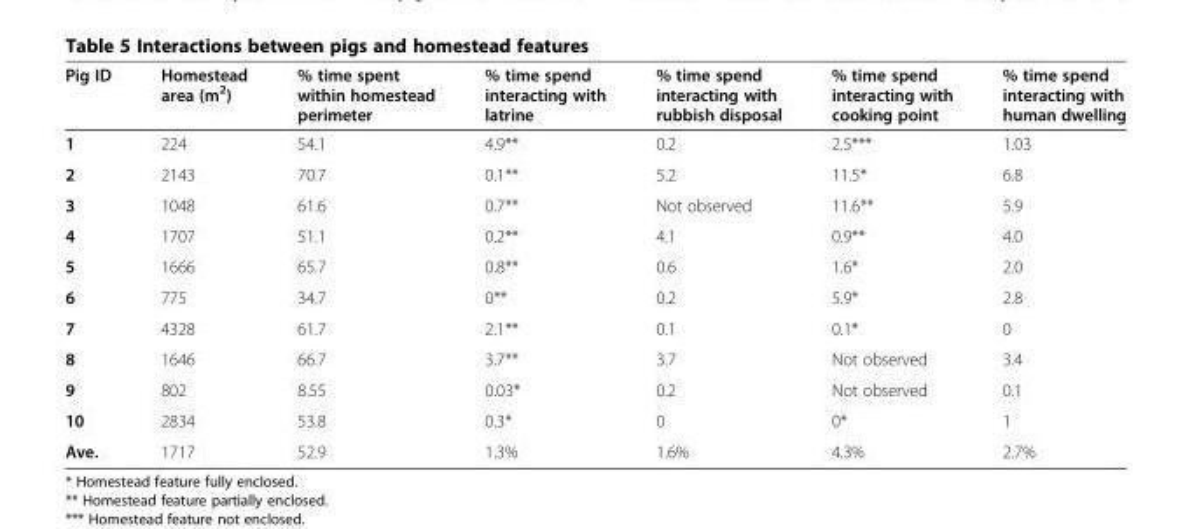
<table><thead><tr><td>Pig ID</td><td>Homestead area (m<sup>2</sup>)</td><td>% time spent within homestead perimeter</td><td>% time spend interacting with latrine</td><td>% time spend interacting with rubbish disposal</td><td>% time spend interacting with cooking point</td><td>% time spend interacting with human dwelling</td></tr></thead><tbody><tr><td>1</td><td>224</td><td>54.1</td><td>4.9**</td><td>0.2</td><td>2.5***</td><td>1.03</td></tr><tr><td>2</td><td>2143</td><td>70.7</td><td>0.1**</td><td>5.2</td><td>11.5*</td><td>6.8</td></tr><tr><td>3</td><td>1048</td><td>61.6</td><td>0.7**</td><td>Not observed</td><td>11.6**</td><td>5.9</td></tr><tr><td>4</td><td>1707</td><td>51.1</td><td>0.2**</td><td>4.1</td><td>0.9**</td><td>4.0</td></tr><tr><td>5</td><td>1666</td><td>65.7</td><td>0.8**</td><td>0.6</td><td>1.6*</td><td>2.0</td></tr><tr><td>6</td><td>775</td><td>34.7</td><td>0**</td><td>0.2</td><td>5.9*</td><td>2.8</td></tr><tr><td>7</td><td>4328</td><td>61.7</td><td>2.1**</td><td>0.1</td><td>0.1*</td><td>0</td></tr><tr><td>8</td><td>1646</td><td>66.7</td><td>3.7**</td><td>3.7</td><td>Not observed</td><td>3.4</td></tr><tr><td>9</td><td>802</td><td>8.55</td><td>0.03*</td><td>0.2</td><td>Not observed</td><td>0.1</td></tr><tr><td>10</td><td>2834</td><td>53.8</td><td>0.3*</td><td>0</td><td>0*</td><td>1</td></tr><tr><td>Ave.</td><td>1717</td><td>52.9</td><td>1.3%</td><td>1.6%</td><td>4.3%</td><td>2.7%</td></tr></tbody></table>